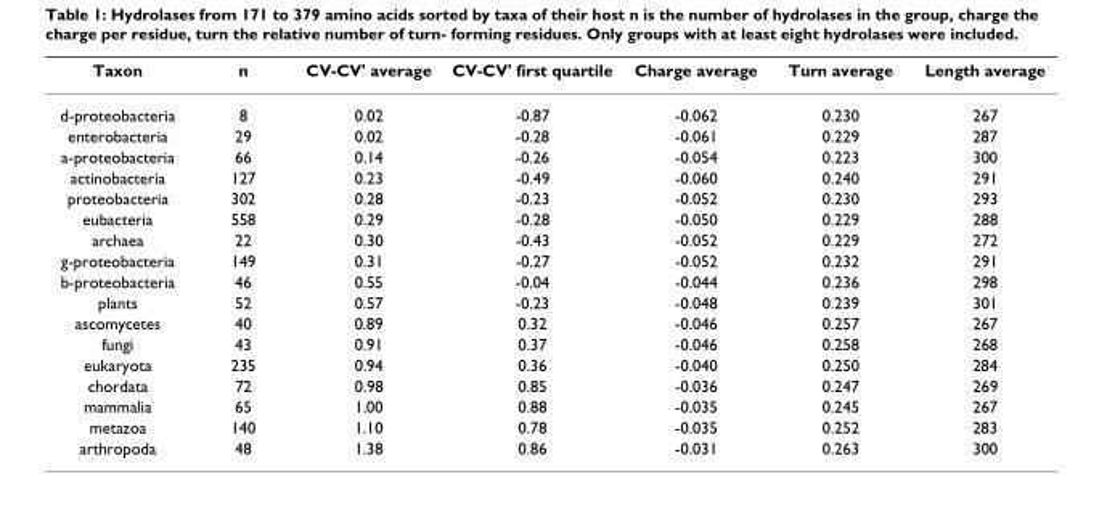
<table><thead><tr><td>Taxon</td><td>n</td><td>CV-CV&#x27; average</td><td>CV-CV&#x27; first quartile</td><td>Charge average</td><td>Turn average</td><td>Length average</td></tr></thead><tbody><tr><td>d-proteobacteria</td><td>8</td><td>0.02</td><td>-0.87</td><td>-0.062</td><td>0.230</td><td>267</td></tr><tr><td>enterobacteria</td><td>29</td><td>0.02</td><td>-0.28</td><td>-0.061</td><td>0.229</td><td>287</td></tr><tr><td>a-proteobacteria</td><td>66</td><td>0.14</td><td>-0.26</td><td>-0.054</td><td>0.223</td><td>300</td></tr><tr><td>actinobacteria</td><td>127</td><td>0.23</td><td>-0.49</td><td>-0.060</td><td>0.240</td><td>291</td></tr><tr><td>proteobacteria</td><td>302</td><td>0.28</td><td>-0.23</td><td>-0.052</td><td>0.230</td><td>293</td></tr><tr><td>eubacteria</td><td>558</td><td>0.29</td><td>-0.28</td><td>-0.050</td><td>0.229</td><td>288</td></tr><tr><td>archaea</td><td>22</td><td>0.30</td><td>-0.43</td><td>-0.052</td><td>0.229</td><td>272</td></tr><tr><td>g-proteobacteria</td><td>149</td><td>0.31</td><td>-0.27</td><td>-0.052</td><td>0.232</td><td>291</td></tr><tr><td>b-proteobacteria</td><td>46</td><td>0.55</td><td>-0.04</td><td>-0.044</td><td>0.236</td><td>298</td></tr><tr><td>plants</td><td>52</td><td>0.57</td><td>-0.23</td><td>-0.048</td><td>0.239</td><td>301</td></tr><tr><td>ascomycetes</td><td>40</td><td>0.89</td><td>0.32</td><td>-0.046</td><td>0.257</td><td>267</td></tr><tr><td>fungi</td><td>43</td><td>0.91</td><td>0.37</td><td>-0.046</td><td>0.258</td><td>268</td></tr><tr><td>eukaryota</td><td>235</td><td>0.94</td><td>0.36</td><td>-0.040</td><td>0.250</td><td>284</td></tr><tr><td>chordata</td><td>72</td><td>0.98</td><td>0.85</td><td>-0.036</td><td>0.247</td><td>269</td></tr><tr><td>mammalia</td><td>65</td><td>1.00</td><td>0.88</td><td>-0.035</td><td>0.245</td><td>267</td></tr><tr><td>metazoa</td><td>140</td><td>1.10</td><td>0.78</td><td>-0.035</td><td>0.252</td><td>283</td></tr><tr><td>arthropoda</td><td>48</td><td>1.38</td><td>0.86</td><td>-0.031</td><td>0.263</td><td>300</td></tr></tbody></table>